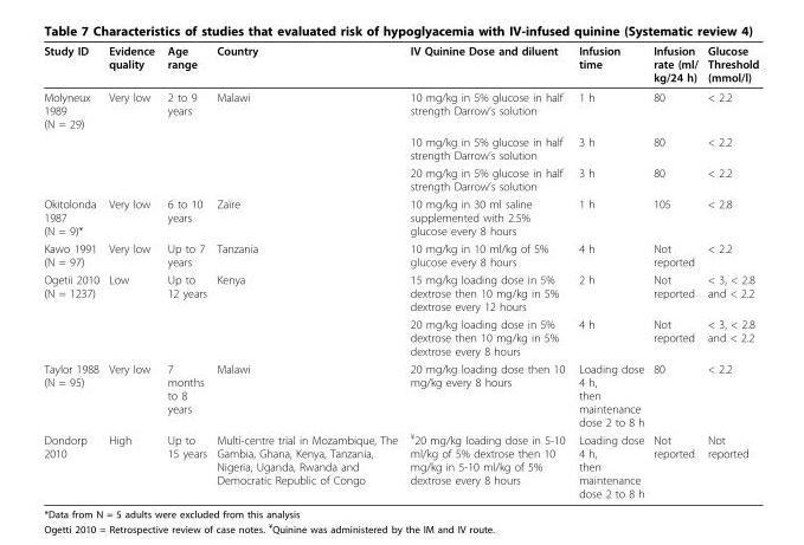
<table><thead><tr><td>Study ID</td><td>Evidence quality</td><td>Age range</td><td>Country</td><td>IV Quinine Dose and diluent</td><td>Infusion time</td><td>Infusion rate (ml/ kg/24 h)</td><td>Glucose Threshold (mmol/l)</td></tr></thead><tbody><tr><td rowspan="3">Molyneux 1989 (N = 29)</td><td>Very low</td><td>2 to 9 years</td><td>Malawi</td><td>10 mg/kg in 5% glucose in half strength Darrow’s solution</td><td>1 h</td><td>80</td><td>&lt; 2.2</td></tr><tr><td></td><td></td><td></td><td>10 mg/kg in 5% glucose in half strength Darrow’s solution</td><td>3 h</td><td>80</td><td>&lt; 2.2</td></tr><tr><td></td><td></td><td></td><td>20 mg/kg in 5% glucose in half strength Darrow’s solution</td><td>3 h</td><td>80</td><td>&lt; 2.2</td></tr><tr><td>Okitolonda 1987 (N = 9)*</td><td>Very low</td><td>6 to 10 years</td><td>Zaïre</td><td>10 mg/kg in 30 ml saline supplemented with 2.5% glucose every 8 hours</td><td>1 h</td><td>105</td><td>&lt; 2.8</td></tr><tr><td>Kawo 1991 (N = 97)</td><td>Very low</td><td>Up to 7 years</td><td>Tanzania</td><td>10 mg/kg in 10 ml/kg of 5% glucose every 8 hours</td><td>4 h</td><td>Not reported</td><td>&lt; 2.2</td></tr><tr><td rowspan="2">Ogetii 2010 (N = 1237)</td><td>Low</td><td>Up to 12 years</td><td>Kenya</td><td>15 mg/kg loading dose in 5% dextrose then 10 mg/kg in 5% dextrose every 12 hours</td><td>2 h</td><td>Not reported</td><td>&lt; 3, &lt; 2.8 and &lt; 2.2</td></tr><tr><td></td><td></td><td></td><td>20 mg/kg loading dose in 5% dextrose then 10 mg/kg in 5% dextrose every 8 hours</td><td>4 h</td><td>Not reported</td><td>&lt; 3, &lt; 2.8 and &lt; 2.2</td></tr><tr><td>Taylor 1988 (N = 95)</td><td>Very low</td><td>7 months to 8 years</td><td>Malawi</td><td>20 mg/kg loading dose then 10 mg/kg every 8 hours</td><td>Loading dose 4 h, then maintenance dose 2 to 8 h</td><td>80</td><td>&lt; 2.2</td></tr><tr><td>Dondorp 2010</td><td>High</td><td>Up to 15 years</td><td>Multi-centre trial in Mozambique, The Gambia, Ghana, Kenya, Tanzania, Nigeria, Uganda, Rwanda and Democratic Republic of Congo</td><td><sup>¥</sup>20 mg/kg loading dose in 5-10 ml/kg of 5% dextrose then 10 mg/kg in 5-10 ml/kg of 5% dextrose every 8 hours</td><td>Loading dose 4 h, then maintenance dose 2 to 8 h</td><td>Not reported</td><td>Not reported</td></tr></tbody></table>